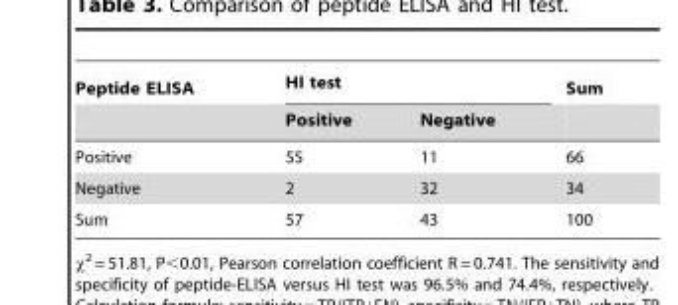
<table><thead><tr><td rowspan="2">Peptide ELISA</td><td colspan="2">HI test</td><td rowspan="2">Sum</td></tr><tr><td>Positive</td><td>Negative</td></tr></thead><tbody><tr><td>Positive</td><td>55</td><td>11</td><td>66</td></tr><tr><td>Negative</td><td>2</td><td>32</td><td>34</td></tr><tr><td>Sum</td><td>57</td><td>43</td><td>100</td></tr></tbody></table>